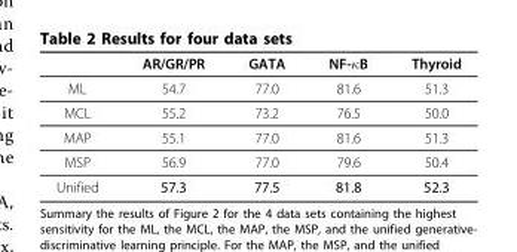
<table><thead><tr><td></td><td>AR/GR/PR</td><td>GATA</td><td>NF-κB</td><td>Thyroid</td></tr></thead><tbody><tr><td>ML</td><td>54.7</td><td>77.0</td><td>81.6</td><td>51.3</td></tr><tr><td>MCL</td><td>55.2</td><td>73.2</td><td>76.5</td><td>50.0</td></tr><tr><td>MAP</td><td>55.1</td><td>77.0</td><td>81.6</td><td>51.3</td></tr><tr><td>MSP</td><td>56.9</td><td>77.0</td><td>79.6</td><td>50.4</td></tr><tr><td>Unified</td><td>57.3</td><td>77.5</td><td>81.8</td><td>52.3</td></tr></tbody></table>